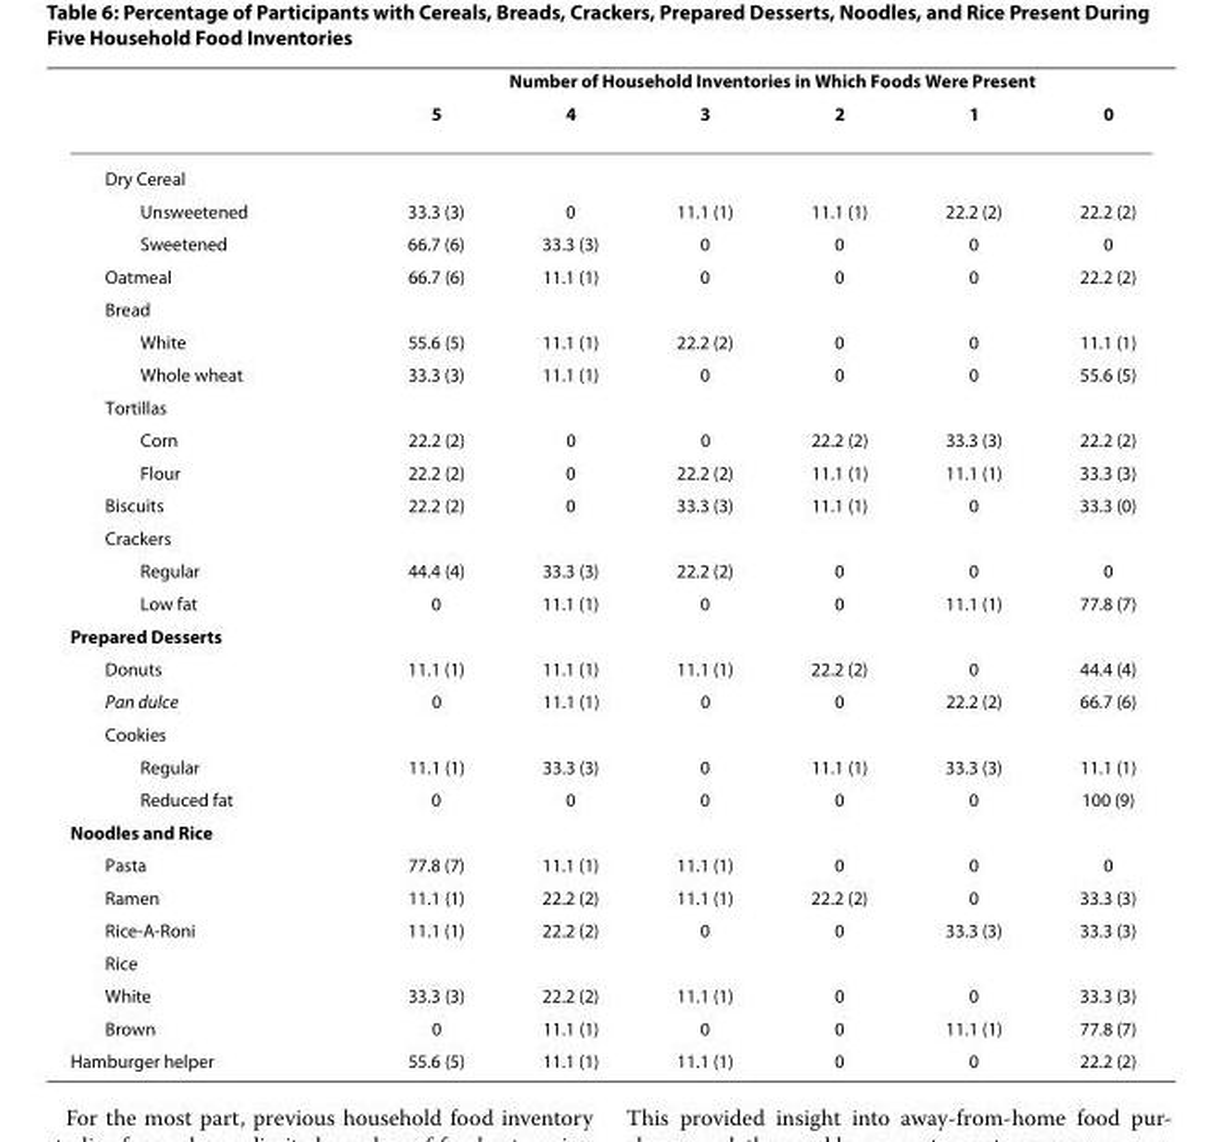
<table><thead><tr><td rowspan="2"></td><td colspan="6">Number of Household Inventories in Which Foods Were Present</td></tr><tr><td>5</td><td>4</td><td>3</td><td>2</td><td>1</td><td>0</td></tr></thead><tbody><tr><td colspan="7">Dry Cereal</td></tr><tr><td>Unsweetened</td><td>33.3 (3)</td><td>0</td><td>11.1 (1)</td><td>11.1 (1)</td><td>22.2 (2)</td><td>22.2 (2)</td></tr><tr><td>Sweetened</td><td>66.7 (6)</td><td>33.3 (3)</td><td>0</td><td>0</td><td>0</td><td>0</td></tr><tr><td>Oatmeal</td><td>66.7 (6)</td><td>11.1 (1)</td><td>0</td><td>0</td><td>0</td><td>22.2 (2)</td></tr><tr><td colspan="7">Bread</td></tr><tr><td>White</td><td>55.6 (5)</td><td>11.1 (1)</td><td>22.2 (2)</td><td>0</td><td>0</td><td>11.1 (1)</td></tr><tr><td>Whole wheat</td><td>33.3 (3)</td><td>11.1 (1)</td><td>0</td><td>0</td><td>0</td><td>55.6 (5)</td></tr><tr><td colspan="7">Tortillas</td></tr><tr><td>Corn</td><td>22.2 (2)</td><td>0</td><td>0</td><td>22.2 (2)</td><td>33.3 (3)</td><td>22.2 (2)</td></tr><tr><td>Flour</td><td>22.2 (2)</td><td>0</td><td>22.2 (2)</td><td>11.1 (1)</td><td>11.1 (1)</td><td>33.3 (3)</td></tr><tr><td>Biscuits</td><td>22.2 (2)</td><td>0</td><td>33.3 (3)</td><td>11.1 (1)</td><td>0</td><td>33.3 (0)</td></tr><tr><td colspan="7">Crackers</td></tr><tr><td>Regular</td><td>44.4 (4)</td><td>33.3 (3)</td><td>22.2 (2)</td><td>0</td><td>0</td><td>0</td></tr><tr><td>Low fat</td><td>0</td><td>11.1 (1)</td><td>0</td><td>0</td><td>11.1 (1)</td><td>77.8 (7)</td></tr><tr><td colspan="7">Prepared Desserts</td></tr><tr><td>Donuts</td><td>11.1 (1)</td><td>11.1 (1)</td><td>11.1 (1)</td><td>22.2 (2)</td><td>0</td><td>44.4 (4)</td></tr><tr><td>Pan dulce</td><td>0</td><td>11.1 (1)</td><td>0</td><td>0</td><td>22.2 (2)</td><td>66.7 (6)</td></tr><tr><td colspan="7">Cookies</td></tr><tr><td>Regular</td><td>11.1 (1)</td><td>33.3 (3)</td><td>0</td><td>11.1 (1)</td><td>33.3 (3)</td><td>11.1 (1)</td></tr><tr><td>Reduced fat</td><td>0</td><td>0</td><td>0</td><td>0</td><td>0</td><td>100 (9)</td></tr><tr><td colspan="7">Noodles and Rice</td></tr><tr><td>Pasta</td><td>77.8 (7)</td><td>11.1 (1)</td><td>11.1 (1)</td><td>0</td><td>0</td><td>0</td></tr><tr><td>Ramen</td><td>11.1 (1)</td><td>22.2 (2)</td><td>11.1 (1)</td><td>22.2 (2)</td><td>0</td><td>33.3 (3)</td></tr><tr><td>Rice-A-Roni</td><td>11.1 (1)</td><td>22.2 (2)</td><td>0</td><td>0</td><td>33.3 (3)</td><td>33.3 (3)</td></tr><tr><td colspan="7">Rice</td></tr><tr><td>White</td><td>33.3 (3)</td><td>22.2 (2)</td><td>11.1 (1)</td><td>0</td><td>0</td><td>33.3 (3)</td></tr><tr><td>Brown</td><td>0</td><td>11.1 (1)</td><td>0</td><td>0</td><td>11.1 (1)</td><td>77.8 (7)</td></tr><tr><td>Hamburger helper</td><td>55.6 (5)</td><td>11.1 (1)</td><td>11.1 (1)</td><td>0</td><td>0</td><td>22.2 (2)</td></tr></tbody></table>